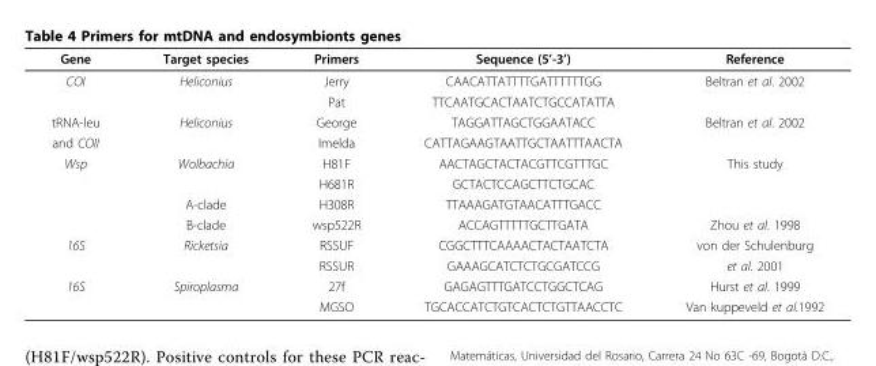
<table><thead><tr><td>Gene</td><td>Target species</td><td>Primers</td><td>Sequence (5’-3’)</td><td>Reference</td></tr></thead><tbody><tr><td rowspan="2">COI</td><td>Heliconius</td><td>Jerry</td><td>CAACATTATTTTGATTTTTTGG</td><td>Beltran et al. 2002</td></tr><tr><td></td><td>Pat</td><td>TTCAATGCACTAATCTGCCATATTA</td><td></td></tr><tr><td>tRNA-leu</td><td>Heliconius</td><td>George</td><td>TAGGATTAGCTGGAATACC</td><td>Beltran et al. 2002</td></tr><tr><td>and COII</td><td></td><td>Imelda</td><td>CATTAGAAGTAATTGCTAATTTAACTA</td><td></td></tr><tr><td rowspan="4">Wsp</td><td>Wolbachia</td><td>H81F</td><td>AACTAGCTACTACGTTCGTTTGC</td><td>This study</td></tr><tr><td></td><td>H681R</td><td>GCTACTCCAGCTTCTGCAC</td><td></td></tr><tr><td>A-clade</td><td>H308R</td><td>TTAAAGATGTAACATTTGACC</td><td></td></tr><tr><td>B-clade</td><td>wsp522R</td><td>ACCAGTTTTTGCTTGATA</td><td>Zhou et al. 1998</td></tr><tr><td rowspan="2">16S</td><td>Ricketsia</td><td>RSSUF</td><td>CGGCTTTCAAAACTACTAATCTA</td><td>von der Schulenburg</td></tr><tr><td></td><td>RSSUR</td><td>GAAAGCATCTCTGCGATCCG</td><td>et al. 2001</td></tr><tr><td rowspan="2">16S</td><td>Spiroplasma</td><td>27f</td><td>GAGAGTTTGATCCTGGCTCAG</td><td>Hurst et al. 1999</td></tr><tr><td></td><td>MGSO</td><td>TGCACCATCTGTCACTCTGTTAACCTC</td><td>Van kuppeveld et al.1992</td></tr></tbody></table>